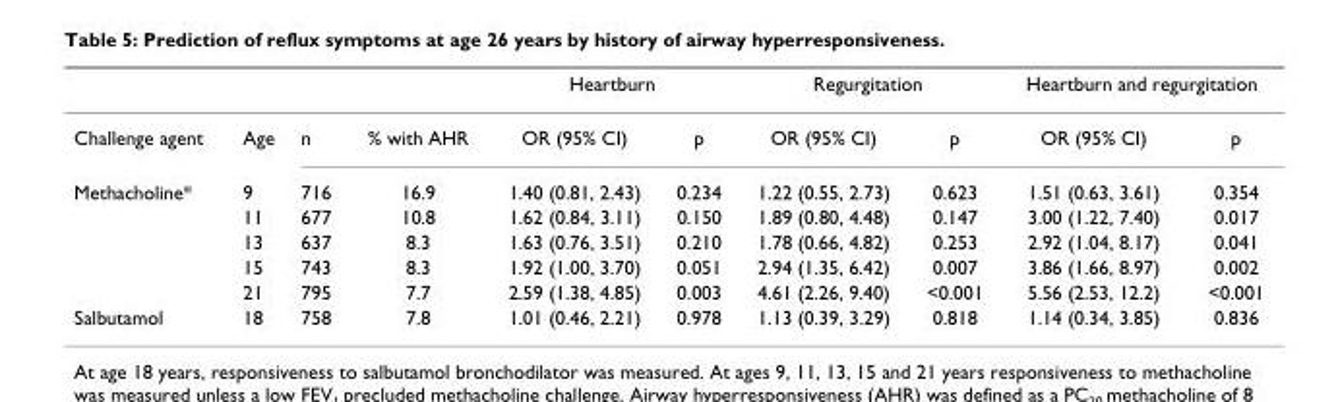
<table><thead><tr><td rowspan="2">Challenge agent</td><td rowspan="2">Age</td><td rowspan="2">n</td><td rowspan="2">% with AHR</td><td colspan="2">Heartburn</td><td colspan="2">Regurgitation</td><td colspan="2">Heartburn and regurgitation</td></tr><tr><td>OR (95% CI)</td><td>p</td><td>OR (95% CI)</td><td>p</td><td>OR (95% CI)</td><td>p</td></tr></thead><tbody><tr><td rowspan="5">Methacholine*</td><td>9</td><td>716</td><td>16.9</td><td>1.40 (0.81, 2.43)</td><td>0.234</td><td>1.22 (0.55, 2.73)</td><td>0.623</td><td>1.51 (0.63, 3.61)</td><td>0.354</td></tr><tr><td>11</td><td>677</td><td>10.8</td><td>1.62 (0.84, 3.11)</td><td>0.150</td><td>1.89 (0.80, 4.48)</td><td>0.147</td><td>3.00 (1.22, 7.40)</td><td>0.017</td></tr><tr><td>13</td><td>637</td><td>8.3</td><td>1.63 (0.76, 3.51)</td><td>0.210</td><td>1.78 (0.66, 4.82)</td><td>0.253</td><td>2.92 (1.04, 8.17)</td><td>0.041</td></tr><tr><td>15</td><td>743</td><td>8.3</td><td>1.92 (1.00, 3.70)</td><td>0.051</td><td>2.94 (1.35, 6.42)</td><td>0.007</td><td>3.86 (1.66, 8.97)</td><td>0.002</td></tr><tr><td>21</td><td>795</td><td>7.7</td><td>2.59 (1.38, 4.85)</td><td>0.003</td><td>4.61 (2.26, 9.40)</td><td>&lt;0.001</td><td>5.56 (2.53, 12.2)</td><td>&lt;0.001</td></tr><tr><td>Salbutamol</td><td>18</td><td>758</td><td>7.8</td><td>1.01 (0.46, 2.21)</td><td>0.978</td><td>1.13 (0.39, 3.29)</td><td>0.818</td><td>1.14 (0.34, 3.85)</td><td>0.836</td></tr></tbody></table>